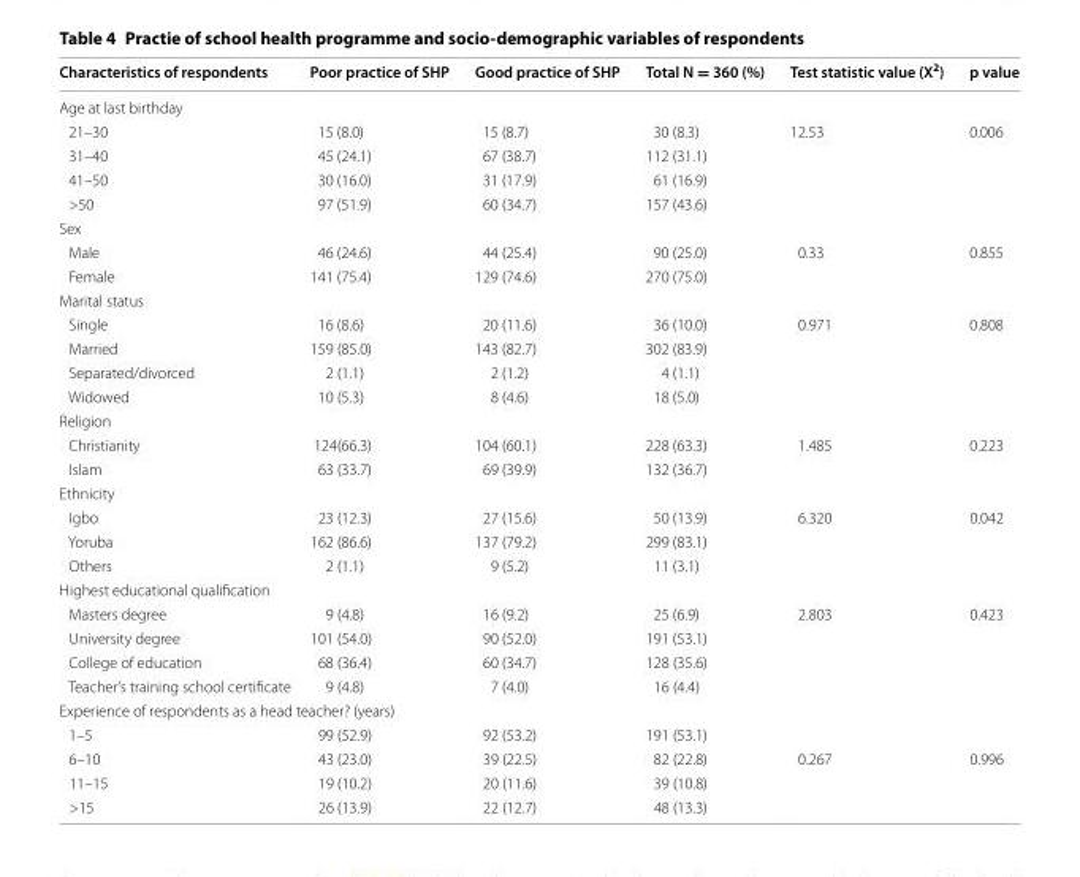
<table><thead><tr><td>Characteristics of respondents</td><td>Poor practice of SHP</td><td>Good practice of SHP</td><td>Total N = 360 (%)</td><td>Test statistic value (X<sup>2</sup>)</td><td>p value</td></tr></thead><tbody><tr><td colspan="6">Age at last birthday</td></tr><tr><td>21–30</td><td>15 (8.0)</td><td>15 (8.7)</td><td>30 (8.3)</td><td>12.53</td><td>0.006</td></tr><tr><td>31–40</td><td>45 (24.1)</td><td>67 (38.7)</td><td>112 (31.1)</td><td></td><td></td></tr><tr><td>41–50</td><td>30 (16.0)</td><td>31 (17.9)</td><td>61 (16.9)</td><td></td><td></td></tr><tr><td>&gt;50</td><td>97 (51.9)</td><td>60 (34.7)</td><td>157 (43.6)</td><td></td><td></td></tr><tr><td colspan="6">Sex</td></tr><tr><td>Male</td><td>46 (24.6)</td><td>44 (25.4)</td><td>90 (25.0)</td><td>0.33</td><td>0.855</td></tr><tr><td>Female</td><td>141 (75.4)</td><td>129 (74.6)</td><td>270 (75.0)</td><td></td><td></td></tr><tr><td colspan="6">Marital status</td></tr><tr><td>Single</td><td>16 (8.6)</td><td>20 (11.6)</td><td>36 (10.0)</td><td>0.971</td><td>0.808</td></tr><tr><td>Married</td><td>159 (85.0)</td><td>143 (82.7)</td><td>302 (83.9)</td><td></td><td></td></tr><tr><td>Separated/divorced</td><td>2 (1.1)</td><td>2 (1.2)</td><td>4 (1.1)</td><td></td><td></td></tr><tr><td>Widowed</td><td>10 (5.3)</td><td>8 (4.6)</td><td>18 (5.0)</td><td></td><td></td></tr><tr><td colspan="6">Religion</td></tr><tr><td>Christianity</td><td>124(66.3)</td><td>104 (60.1)</td><td>228 (63.3)</td><td>1.485</td><td>0.223</td></tr><tr><td>Islam</td><td>63 (33.7)</td><td>69 (39.9)</td><td>132 (36.7)</td><td></td><td></td></tr><tr><td colspan="6">Ethnicity</td></tr><tr><td>Igbo</td><td>23 (12.3)</td><td>27 (15.6)</td><td>50 (13.9)</td><td>6.320</td><td>0.042</td></tr><tr><td>Yoruba</td><td>162 (86.6)</td><td>137 (79.2)</td><td>299 (83.1)</td><td></td><td></td></tr><tr><td>Others</td><td>2 (1.1)</td><td>9 (5.2)</td><td>11 (3.1)</td><td></td><td></td></tr><tr><td colspan="6">Highest educational qualification</td></tr><tr><td>Masters degree</td><td>9 (4.8)</td><td>16 (9.2)</td><td>25 (6.9)</td><td>2.803</td><td>0.423</td></tr><tr><td>University degree</td><td>101 (54.0)</td><td>90 (52.0)</td><td>191 (53.1)</td><td></td><td></td></tr><tr><td>College of education</td><td>68 (36.4)</td><td>60 (34.7)</td><td>128 (35.6)</td><td></td><td></td></tr><tr><td>Teacher’s training school certificate</td><td>9 (4.8)</td><td>7 (4.0)</td><td>16 (4.4)</td><td></td><td></td></tr><tr><td colspan="6">Experience of respondents as a head teacher? (years)</td></tr><tr><td>1–5</td><td>99 (52.9)</td><td>92 (53.2)</td><td>191 (53.1)</td><td></td><td></td></tr><tr><td>6–10</td><td>43 (23.0)</td><td>39 (22.5)</td><td>82 (22.8)</td><td>0.267</td><td>0.996</td></tr><tr><td>11–15</td><td>19 (10.2)</td><td>20 (11.6)</td><td>39 (10.8)</td><td></td><td></td></tr><tr><td>&gt;15</td><td>26 (13.9)</td><td>22 (12.7)</td><td>48 (13.3)</td><td></td><td></td></tr></tbody></table>